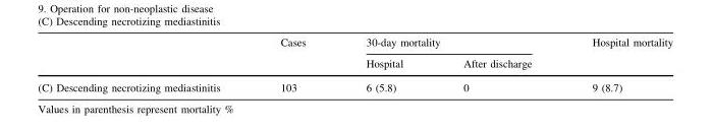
<table><thead><tr><td rowspan="2"></td><td rowspan="2">Cases</td><td colspan="2">30-day mortality</td><td rowspan="2">Hospital mortality</td></tr><tr><td>Hospital</td><td>After discharge</td></tr></thead><tbody><tr><td>(C) Descending necrotizing mediastinitis</td><td>103</td><td>6 (5.8)</td><td>0</td><td>9 (8.7)</td></tr></tbody></table>